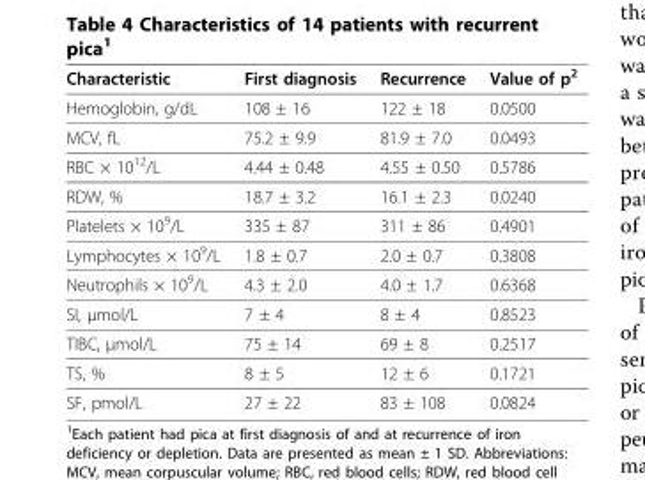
<table><thead><tr><td>Characteristic</td><td>First diagnosis</td><td>Recurrence</td><td>Value of p<sup>2</sup></td></tr></thead><tbody><tr><td>Hemoglobin, g/dL</td><td>108 ± 16</td><td>122 ± 18</td><td>0.0500</td></tr><tr><td>MCV, fL</td><td>75.2 ± 9.9</td><td>81.9 ± 7.0</td><td>0.0493</td></tr><tr><td>RBC × 10<sup>12</sup>/L</td><td>4.44 ± 0.48</td><td>4.55 ± 0.50</td><td>0.5786</td></tr><tr><td>RDW, %</td><td>18.7 ± 3.2</td><td>16.1 ± 2.3</td><td>0.0240</td></tr><tr><td>Platelets × 10<sup>9</sup>/L</td><td>335 ± 87</td><td>311 ± 86</td><td>0.4901</td></tr><tr><td>Lymphocytes × 10<sup>9</sup>/L</td><td>1.8 ± 0.7</td><td>2.0 ± 0.7</td><td>0.3808</td></tr><tr><td>Neutrophils × 10<sup>9</sup>/L</td><td>4.3 ± 2.0</td><td>4.0 ± 1.7</td><td>0.6368</td></tr><tr><td>SI, μmol/L</td><td>7 ± 4</td><td>8 ± 4</td><td>0.8523</td></tr><tr><td>TIBC, μmol/L</td><td>75 ± 14</td><td>69 ± 8</td><td>0.2517</td></tr><tr><td>TS, %</td><td>8 ± 5</td><td>12 ± 6</td><td>0.1721</td></tr><tr><td>SF, pmol/L</td><td>27 ± 22</td><td>83 ± 108</td><td>0.0824</td></tr></tbody></table>